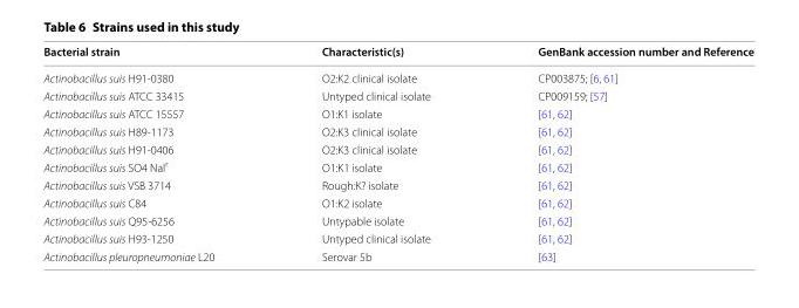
<table><thead><tr><td>Bacterial strain</td><td>Characteristic(s)</td><td>GenBank accession number and Reference</td></tr></thead><tbody><tr><td>Actinobacillus suis H91-0380</td><td>O2:K2 clinical isolate</td><td>CP003875; [6, 61]</td></tr><tr><td>Actinobacillus suis ATCC 33415</td><td>Untyped clinical isolate</td><td>CP009159; [57]</td></tr><tr><td>Actinobacillus suis ATCC 15557</td><td>O1:K1 isolate</td><td>[61, 62]</td></tr><tr><td>Actinobacillus suis H89-1173</td><td>O2:K3 clinical isolate</td><td>[61, 62]</td></tr><tr><td>Actinobacillus suis H91-0406</td><td>O2:K3 clinical isolate</td><td>[61, 62]</td></tr><tr><td>Actinobacillus suis SO4 Nal<sup>r</sup></td><td>O1:K1 isolate</td><td>[61, 62]</td></tr><tr><td>Actinobacillus suis VSB 3714</td><td>Rough:K? isolate</td><td>[61, 62]</td></tr><tr><td>Actinobacillus suis C84</td><td>O1:K2 isolate</td><td>[61, 62]</td></tr><tr><td>Actinobacillus suis Q95-6256</td><td>Untypable isolate</td><td>[61, 62]</td></tr><tr><td>Actinobacillus suis H93-1250</td><td>Untyped clinical isolate</td><td>[61, 62]</td></tr><tr><td>Actinobacillus pleuropneumoniae L20</td><td>Serovar 5b</td><td>[63]</td></tr></tbody></table>